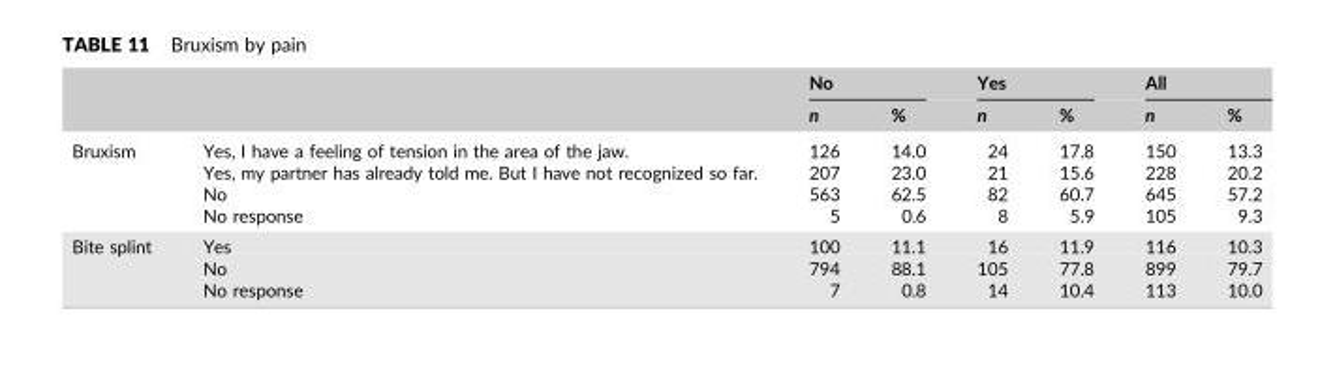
<table><thead><tr><td rowspan="2"></td><td rowspan="2"></td><td colspan="2">No</td><td colspan="2">Yes</td><td colspan="2">All</td></tr><tr><td>n</td><td>%</td><td>n</td><td>%</td><td>n</td><td>%</td></tr></thead><tbody><tr><td rowspan="4">Bruxism</td><td>Yes, I have a feeling of tension in the area of the jaw.</td><td>126</td><td>14.0</td><td>24</td><td>17.8</td><td>150</td><td>13.3</td></tr><tr><td>Yes, my partner has already told me. But I have not recognized so far.</td><td>207</td><td>23.0</td><td>21</td><td>15.6</td><td>228</td><td>20.2</td></tr><tr><td>No</td><td>563</td><td>62.5</td><td>82</td><td>60.7</td><td>645</td><td>57.2</td></tr><tr><td>No response</td><td>5</td><td>0.6</td><td>8</td><td>5.9</td><td>105</td><td>9.3</td></tr><tr><td rowspan="3">Bite splint</td><td>Yes</td><td>100</td><td>11.1</td><td>16</td><td>11.9</td><td>116</td><td>10.3</td></tr><tr><td>No</td><td>794</td><td>88.1</td><td>105</td><td>77.8</td><td>899</td><td>79.7</td></tr><tr><td>No response</td><td>7</td><td>0.8</td><td>14</td><td>10.4</td><td>113</td><td>10.0</td></tr></tbody></table>